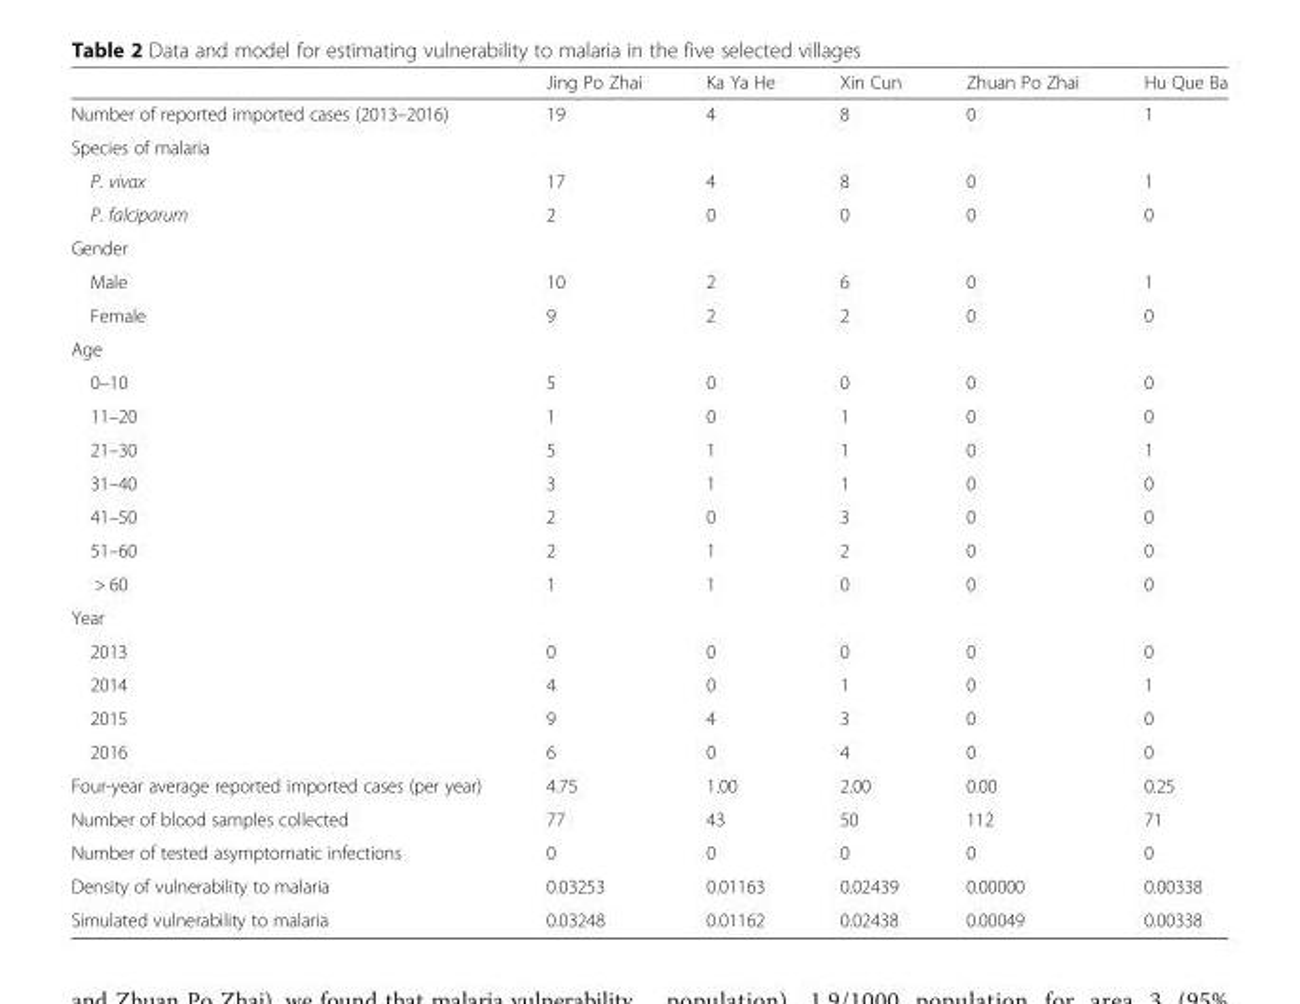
<table><thead><tr><td></td><td>Jing Po Zhai</td><td>Ka Ya He</td><td>Xin Cun</td><td>Zhuan Po Zhai</td><td>Hu Que Ba</td></tr></thead><tbody><tr><td>Number of reported imported cases (2013–2016)</td><td>19</td><td>4</td><td>8</td><td>0</td><td>1</td></tr><tr><td colspan="6">Species of malaria</td></tr><tr><td>P. vivax</td><td>17</td><td>4</td><td>8</td><td>0</td><td>1</td></tr><tr><td>P. falciparum</td><td>2</td><td>0</td><td>0</td><td>0</td><td>0</td></tr><tr><td colspan="6">Gender</td></tr><tr><td>Male</td><td>10</td><td>2</td><td>6</td><td>0</td><td>1</td></tr><tr><td>Female</td><td>9</td><td>2</td><td>2</td><td>0</td><td>0</td></tr><tr><td colspan="6">Age</td></tr><tr><td>0–10</td><td>5</td><td>0</td><td>0</td><td>0</td><td>0</td></tr><tr><td>11–20</td><td>1</td><td>0</td><td>1</td><td>0</td><td>0</td></tr><tr><td>21–30</td><td>5</td><td>1</td><td>1</td><td>0</td><td>1</td></tr><tr><td>31–40</td><td>3</td><td>1</td><td>1</td><td>0</td><td>0</td></tr><tr><td>41–50</td><td>2</td><td>0</td><td>3</td><td>0</td><td>0</td></tr><tr><td>51–60</td><td>2</td><td>1</td><td>2</td><td>0</td><td>0</td></tr><tr><td>&gt; 60</td><td>1</td><td>1</td><td>0</td><td>0</td><td>0</td></tr><tr><td colspan="6">Year</td></tr><tr><td>2013</td><td>0</td><td>0</td><td>0</td><td>0</td><td>0</td></tr><tr><td>2014</td><td>4</td><td>0</td><td>1</td><td>0</td><td>1</td></tr><tr><td>2015</td><td>9</td><td>4</td><td>3</td><td>0</td><td>0</td></tr><tr><td>2016</td><td>6</td><td>0</td><td>4</td><td>0</td><td>0</td></tr><tr><td>Four-year average reported imported cases (per year)</td><td>4.75</td><td>1.00</td><td>2.00</td><td>0.00</td><td>0.25</td></tr><tr><td>Number of blood samples collected</td><td>77</td><td>43</td><td>50</td><td>112</td><td>71</td></tr><tr><td>Number of tested asymptomatic infections</td><td>0</td><td>0</td><td>0</td><td>0</td><td>0</td></tr><tr><td>Density of vulnerability to malaria</td><td>0.03253</td><td>0.01163</td><td>0.02439</td><td>0.00000</td><td>0.00338</td></tr><tr><td>Simulated vulnerability to malaria</td><td>0.03248</td><td>0.01162</td><td>0.02438</td><td>0.00049</td><td>0.00338</td></tr></tbody></table>